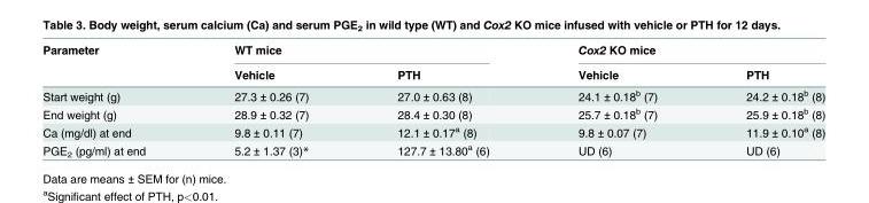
<table><thead><tr><td rowspan="2">Parameter</td><td colspan="2">WT mice</td><td colspan="2">Cox2 KO mice</td></tr><tr><td>Vehicle</td><td>PTH</td><td>Vehicle</td><td>PTH</td></tr></thead><tbody><tr><td>Start weight (g)</td><td>27.3 ± 0.26 (7)</td><td>27.0 ± 0.63 (8)</td><td>24.1 ± 0.18<sup>b</sup> (7)</td><td>24.2 ± 0.18<sup>b</sup> (8)</td></tr><tr><td>End weight (g)</td><td>28.9 ± 0.32 (7)</td><td>28.4 ± 0.30 (8)</td><td>25.7 ± 0.18<sup>b</sup> (7)</td><td>25.9 ± 0.18<sup>b</sup> (8)</td></tr><tr><td>Ca (mg/dl) at end</td><td>9.8 ± 0.11 (7)</td><td>12.1 ± 0.17<sup>a</sup> (8)</td><td>9.8 ± 0.07 (7)</td><td>11.9 ± 0.10<sup>a</sup> (8)</td></tr><tr><td>PGE<sub>2</sub> (pg/ml) at end</td><td>5.2 ± 1.37 (3)*</td><td>127.7 ± 13.80<sup>a</sup> (6)</td><td>UD (6)</td><td>UD (6)</td></tr></tbody></table>